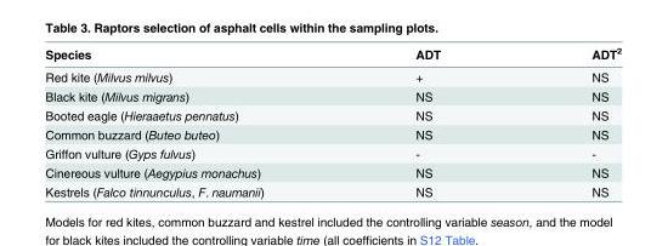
<table><thead><tr><td>Species</td><td>ADT</td><td>ADT<sup>2</sup></td></tr></thead><tbody><tr><td>Red kite (Milvus milvus)</td><td>+</td><td>NS</td></tr><tr><td>Black kite (Milvus migrans)</td><td>NS</td><td>NS</td></tr><tr><td>Booted eagle (Hieraaetus pennatus)</td><td>NS</td><td>NS</td></tr><tr><td>Common buzzard (Buteo buteo)</td><td>NS</td><td>NS</td></tr><tr><td>Griffon vulture (Gyps fulvus)</td><td>-</td><td>-</td></tr><tr><td>Cinereous vulture (Aegypius monachus)</td><td>NS</td><td>NS</td></tr><tr><td>Kestrels (Falco tinnunculus, F. naumanii)</td><td>NS</td><td>NS</td></tr></tbody></table>